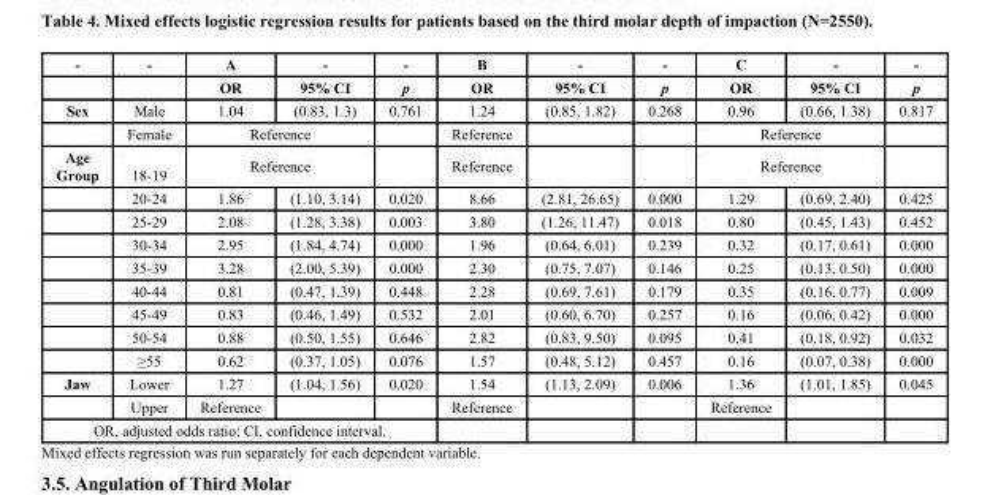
<table><thead><tr><td rowspan="2">-</td><td rowspan="2">-</td><td rowspan="2">A OR</td><td rowspan="2">- 95% CI</td><td rowspan="2">- p</td><td rowspan="2">B OR</td><td rowspan="2">- 95% CI</td><td rowspan="2">- p</td><td rowspan="2">C OR</td><td rowspan="2">- 95% CI</td><td rowspan="2">- p</td></tr><tr></tr></thead><tbody><tr><td rowspan="2">Sex</td><td>Male</td><td>1.04</td><td>(0.83, 1.3)</td><td>0.761</td><td>1.24</td><td>(0.85, 1.82)</td><td>0.268</td><td>0.96</td><td>(0.66, 1.38)</td><td>0.817</td></tr><tr><td>Female</td><td colspan="2">Reference</td><td></td><td>Reference</td><td></td><td></td><td colspan="2">Reference</td><td></td></tr><tr><td rowspan="9">Age Group</td><td>18-19</td><td colspan="2">Reference</td><td></td><td>Reference</td><td></td><td></td><td colspan="2">Reference</td><td></td></tr><tr><td>20-24</td><td>1.86</td><td>(1.10, 3.14)</td><td>0.020</td><td>8.66</td><td>(2.81, 26.65)</td><td>0.000</td><td>1.29</td><td>(0.69, 2.40)</td><td>0.425</td></tr><tr><td>25-29</td><td>2.08</td><td>(1.28, 3.38)</td><td>0.003</td><td>3.80</td><td>(1.26, 11.47)</td><td>0.018</td><td>0.80</td><td>(0.45, 1.43)</td><td>0.452</td></tr><tr><td>30-34</td><td>2.95</td><td>(1.84, 4.74)</td><td>0.000</td><td>1.96</td><td>(0.64, 6.01)</td><td>0.239</td><td>0.32</td><td>(0.17, 0.61)</td><td>0.000</td></tr><tr><td>35-39</td><td>3.28</td><td>(2.00, 5.39)</td><td>0.000</td><td>2.30</td><td>(0.75, 7.07)</td><td>0.146</td><td>0.25</td><td>(0.13, 0.50)</td><td>0.000</td></tr><tr><td>40-44</td><td>0.81</td><td>(0.47, 1.39)</td><td>0.448</td><td>2.28</td><td>(0.69, 7.61)</td><td>0.179</td><td>0.35</td><td>(0.16, 0.77)</td><td>0.009</td></tr><tr><td>45-49</td><td>0.83</td><td>(0.46, 1.49)</td><td>0.532</td><td>2.01</td><td>(0.60, 6.70)</td><td>0.257</td><td>0.16</td><td>(0.06, 0.42)</td><td>0.000</td></tr><tr><td>50-54</td><td>0.88</td><td>(0.50, 1.55)</td><td>0.646</td><td>2.82</td><td>(0.83, 9.50)</td><td>0.095</td><td>0.41</td><td>(0.18, 0.92)</td><td>0.032</td></tr><tr><td>≥55</td><td>0.62</td><td>(0.37, 1.05)</td><td>0.076</td><td>1.57</td><td>(0.48, 5.12)</td><td>0.457</td><td>0.16</td><td>(0.07, 0.38)</td><td>0.000</td></tr><tr><td rowspan="2">Jaw</td><td>Lower</td><td>1.27</td><td>(1.04, 1.56)</td><td>0.020</td><td>1.54</td><td>(1.13, 2.09)</td><td>0.006</td><td>1.36</td><td>(1.01, 1.85)</td><td>0.045</td></tr><tr><td>Upper</td><td>Reference</td><td></td><td></td><td>Reference</td><td></td><td></td><td>Reference</td><td></td><td></td></tr><tr><td colspan="5">OR, adjusted odds ratio; CI, confidence interval.</td><td></td><td></td><td></td><td></td><td></td><td></td></tr></tbody></table>